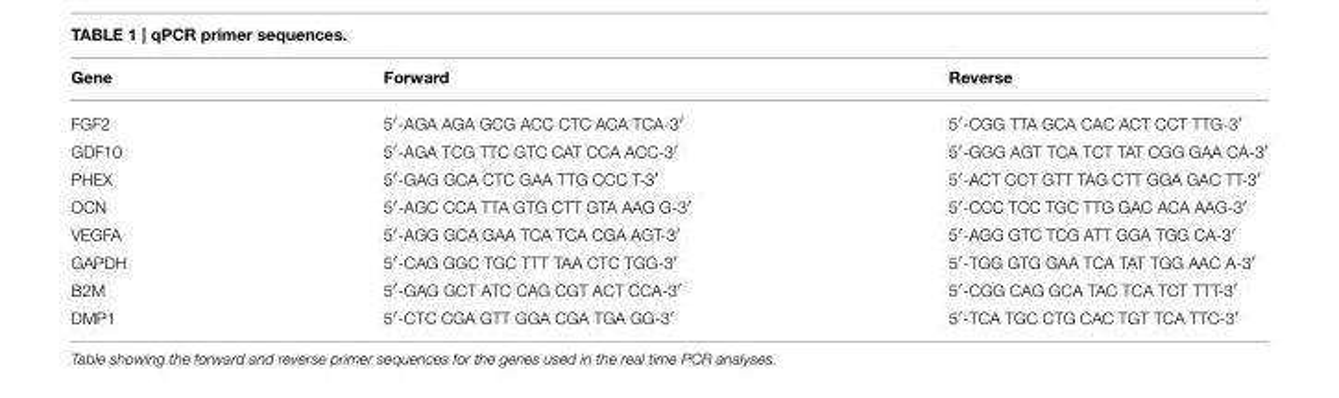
<table><thead><tr><td>Gene</td><td>Forward</td><td>Reverse</td></tr></thead><tbody><tr><td>FGF2</td><td>5′-AGA AGA GCG ACC CTC ACA TCA-3′</td><td>5′-CGG TTA GCA CAC ACT CCT TTG-3′</td></tr><tr><td>GDF10</td><td>5′-AGA TCG TTC GTC CAT CCA ACC-3′</td><td>5′-GGG AGT TCA TCT TAT CGG GAA CA-3′</td></tr><tr><td>PHEX</td><td>5′-GAG GCA CTC GAA TTG CCC T-3′</td><td>5′-ACT CCT GTT TAG CTT GGA GAC TT-3′</td></tr><tr><td>OCN</td><td>5′-AGC CCA TTA GTG CTT GTA AAG G-3′</td><td>5′-CCC TCC TGC TTG GAC ACA AAG-3′</td></tr><tr><td>VEGFA</td><td>5′-AGG GCA GAA TCA TCA CGA AGT-3′</td><td>5′-AGG GTC TCG ATT GGA TGG CA-3′</td></tr><tr><td>GAPDH</td><td>5′-CAG GGC TGC TTT TAA CTC TGG-3′</td><td>5′-TGG GTG GAA TCA TAT TGG AAC A-3′</td></tr><tr><td>B2M</td><td>5′-GAG GCT ATC CAG CGT ACT CCA-3′</td><td>5′-CGG CAG GCA TAC TCA TCT TTT-3′</td></tr><tr><td>DMP1</td><td>5′-CTC CGA GTT GGA CGA TGA GG-3′</td><td>5′-TCA TGC CTG CAC TGT TCA TTC-3′</td></tr></tbody></table>